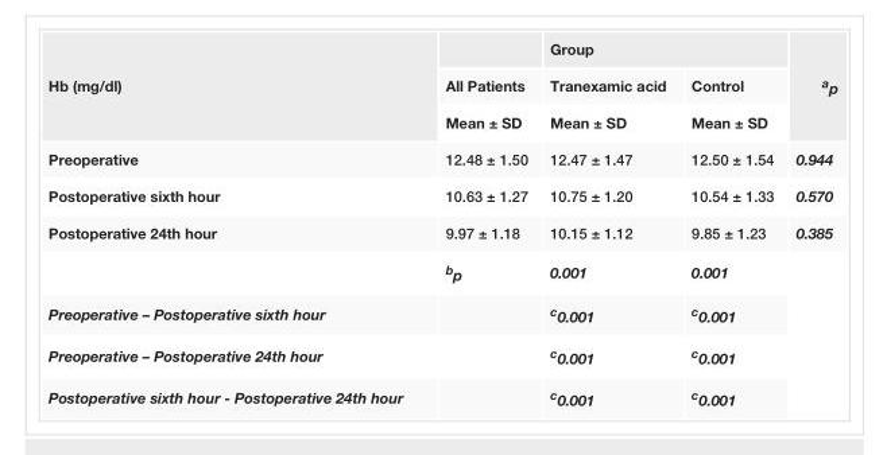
<table><tbody><tr><td rowspan="3">Hb (mg/dl)</td><td></td><td colspan="2">Group</td><td rowspan="3"><sup>a</sup>p</td></tr><tr><td>All Patients</td><td>Tranexamic acid</td><td>Control</td></tr><tr><td>Mean ± SD</td><td>Mean ± SD</td><td>Mean ± SD</td></tr><tr><td>Preoperative</td><td>12.48 ± 1.50</td><td>12.47 ± 1.47</td><td>12.50 ± 1.54</td><td>0.944</td></tr><tr><td>Postoperative sixth hour</td><td>10.63 ± 1.27</td><td>10.75 ± 1.20</td><td>10.54 ± 1.33</td><td>0.570</td></tr><tr><td rowspan="2">Postoperative 24th hour</td><td>9.97 ± 1.18</td><td>10.15 ± 1.12</td><td>9.85 ± 1.23</td><td>0.385</td></tr><tr><td><sup>b</sup>p</td><td>0.001</td><td>0.001</td><td rowspan="4"></td></tr><tr><td>Preoperative – Postoperative sixth hour</td><td></td><td><sup>c</sup>0.001</td><td><sup>c</sup>0.001</td></tr><tr><td>Preoperative – Postoperative 24th hour</td><td></td><td><sup>c</sup>0.001</td><td><sup>c</sup>0.001</td></tr><tr><td>Postoperative sixth hour - Postoperative 24th hour</td><td></td><td><sup>c</sup>0.001</td><td><sup>c</sup>0.001</td></tr></tbody></table>